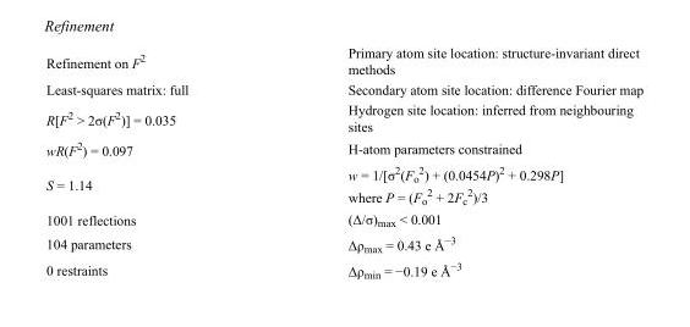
<table><tbody><tr><td>Refinement on F<sup>2</sup></td><td>Primary atom site location: structure-invariant direct methods</td></tr><tr><td>Least-squares matrix: full</td><td>Secondary atom site location: difference Fourier map</td></tr><tr><td>R[F<sup>2</sup> &gt; 2σ(F<sup>2</sup>)] = 0.035</td><td>Hydrogen site location: inferred from neighbouring sites</td></tr><tr><td>wR(F<sup>2</sup>) = 0.097</td><td>H-atom parameters constrained</td></tr><tr><td>S = 1.14</td><td>w = 1/[σ<sup>2</sup>(F<sub>o</sub> <sup>2</sup>) + (0.0454P)<sup>2</sup> + 0.298P] where P = (F<sub>o</sub> <sup>2</sup> + 2F<sub>c</sub> <sup>2</sup>)/3</td></tr><tr><td>1001 reflections</td><td>(Δ/σ)<sub>max</sub> &lt; 0.001</td></tr><tr><td>104 parameters</td><td>Δρ<sub>max</sub> = 0.43 e Å<sup>−3</sup></td></tr><tr><td>0 restraints</td><td>Δρ<sub>min</sub> = −0.19 e Å<sup>−3</sup></td></tr></tbody></table>